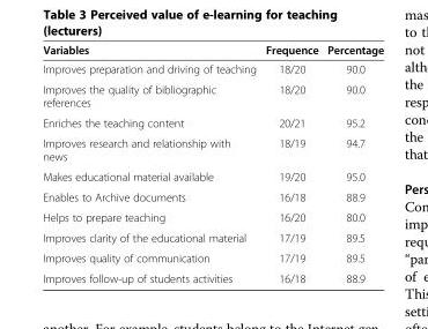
<table><thead><tr><td>Variables</td><td>Frequence</td><td>Percentage</td></tr></thead><tbody><tr><td>Improves preparation and driving of teaching</td><td>18/20</td><td>90.0</td></tr><tr><td>Improves the quality of bibliographic references</td><td>18/20</td><td>90.0</td></tr><tr><td>Enriches the teaching content</td><td>20/21</td><td>95.2</td></tr><tr><td>Improves research and relationship with news</td><td>18/19</td><td>94.7</td></tr><tr><td>Makes educational material available</td><td>19/20</td><td>95.0</td></tr><tr><td>Enables to Archive documents</td><td>16/18</td><td>88.9</td></tr><tr><td>Helps to prepare teaching</td><td>16/20</td><td>80.0</td></tr><tr><td>Improves clarity of the educational material</td><td>17/19</td><td>89.5</td></tr><tr><td>Improves quality of communication</td><td>17/19</td><td>89.5</td></tr><tr><td>Improves follow-up of students activities</td><td>16/18</td><td>88.9</td></tr></tbody></table>